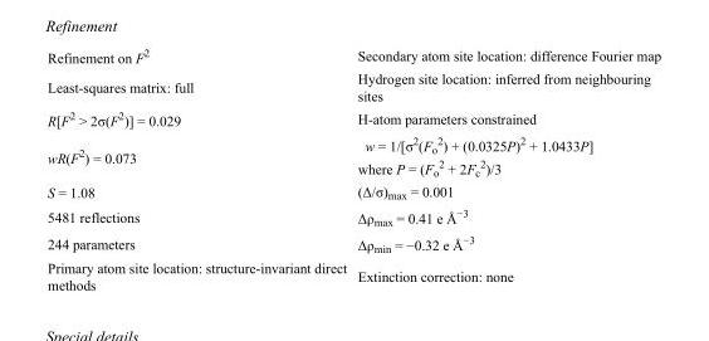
<table><tbody><tr><td>Refinement on F<sup>2</sup></td><td>Secondary atom site location: difference Fourier map</td></tr><tr><td>Least-squares matrix: full</td><td>Hydrogen site location: inferred from neighbouring sites</td></tr><tr><td>R[F<sup>2</sup> &gt; 2σ(F<sup>2</sup>)] = 0.029</td><td>H-atom parameters constrained</td></tr><tr><td>wR(F<sup>2</sup>) = 0.073</td><td>w = 1/[σ<sup>2</sup>(F<sub>o</sub> <sup>2</sup>) + (0.0325P)<sup>2</sup> + 1.0433P] where P = (F<sub>o</sub> <sup>2</sup> + 2F<sub>c</sub> <sup>2</sup>)/3</td></tr><tr><td>S = 1.08</td><td>(Δ/σ)<sub>max</sub> = 0.001</td></tr><tr><td>5481 reflections</td><td>Δρ<sub>max</sub> = 0.41 e Å<sup>−3</sup></td></tr><tr><td>244 parameters</td><td>Δρ<sub>min</sub> = −0.32 e Å<sup>−3</sup></td></tr><tr><td>Primary atom site location: structure-invariant direct methods</td><td>Extinction correction: none</td></tr></tbody></table>